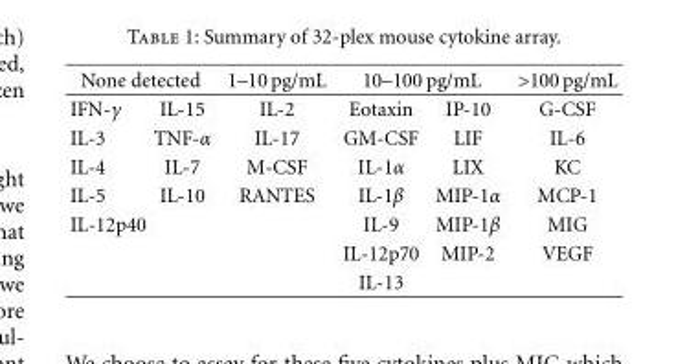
<table><thead><tr><td colspan="2">None detected</td><td rowspan="2">1–10 pg/mL IL-2</td><td colspan="2">10–100 pg/mL</td><td rowspan="2">&gt;100 pg/mL G-CSF</td></tr><tr><td>IFN-γ</td><td>IL-15</td><td>Eotaxin</td><td>IP-10</td></tr></thead><tbody><tr><td>IL-3</td><td>TNF-α</td><td>IL-17</td><td>GM-CSF</td><td>LIF</td><td>IL-6</td></tr><tr><td>IL-4</td><td>IL-7</td><td>M-CSF</td><td>IL-1α</td><td>LIX</td><td>KC</td></tr><tr><td>IL-5</td><td>IL-10</td><td>RANTES</td><td>IL-1β</td><td>MIP-1α</td><td>MCP-1</td></tr><tr><td rowspan="3">IL-12p40</td><td></td><td></td><td>IL-9</td><td>MIP-1β</td><td>MIG</td></tr><tr><td></td><td></td><td>IL-12p70</td><td>MIP-2</td><td>VEGF</td></tr><tr><td></td><td></td><td>IL-13</td><td></td><td></td></tr></tbody></table>